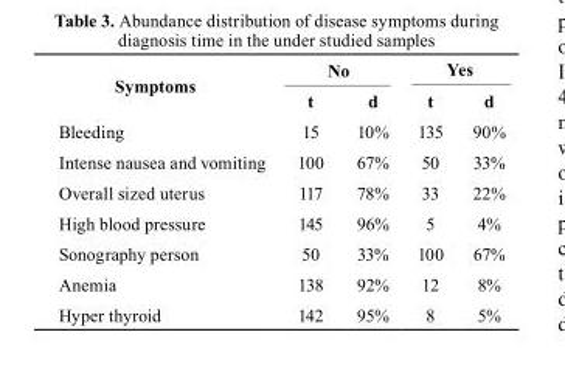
<table><thead><tr><td rowspan="2">symptoms</td><td colspan="2">No</td><td colspan="2">Yes</td></tr><tr><td>t</td><td>d</td><td>t</td><td>d</td></tr></thead><tbody><tr><td>Bleeding</td><td>15</td><td>10%</td><td>135</td><td>90%</td></tr><tr><td>Intense nausea and vomiting</td><td>100</td><td>67%</td><td>50</td><td>33%</td></tr><tr><td>Overall sized uterus</td><td>117</td><td>78%</td><td>33</td><td>22%</td></tr><tr><td>High blood pressure</td><td>145</td><td>96%</td><td>5</td><td>4%</td></tr><tr><td>Sonography person</td><td>50</td><td>33%</td><td>100</td><td>67%</td></tr><tr><td>Anemia</td><td>138</td><td>92%</td><td>12</td><td>8%</td></tr><tr><td>Hyper thyroid</td><td>142</td><td>95%</td><td>8</td><td>5%</td></tr></tbody></table>